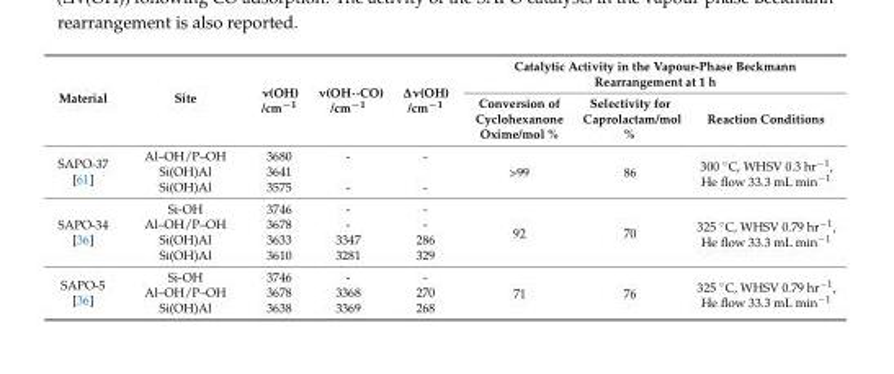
<table><thead><tr><td rowspan="2">Material</td><td rowspan="2">Site</td><td rowspan="2">ν(OH) /cm−1</td><td rowspan="2">ν(OH··CO) /cm−1</td><td rowspan="2">∆ν(OH) /cm−1</td><td colspan="3">Catalytic Activity in the Vapour-Phase Beckmann Rearrangement at 1 h</td></tr><tr><td>Conversion of Cyclohexanone Oxime/mol %</td><td>Selectivity for Caprolactam/mol %</td><td>Reaction Conditions</td></tr></thead><tbody><tr><td rowspan="3">SAPO-37 [61]</td><td>Al–OH/P–OH</td><td>3680</td><td>-</td><td>-</td><td rowspan="3">&gt;99</td><td rowspan="3">86</td><td rowspan="3">300 ◦C, WHSV 0.3 hr−1, He flow 33.3 mL min−1</td></tr><tr><td>Si(OH)Al</td><td>3641</td><td></td><td></td></tr><tr><td>Si(OH)Al</td><td>3575</td><td>-</td><td>-</td></tr><tr><td rowspan="4">SAPO-34 [36]</td><td>Si-OH</td><td>3746</td><td>-</td><td>-</td><td rowspan="4">92</td><td rowspan="4">70</td><td rowspan="4">325 ◦C, WHSV 0.79 hr−1, He flow 33.3 mL min−1</td></tr><tr><td>Al–OH/P–OH</td><td>3678</td><td>-</td><td>-</td></tr><tr><td>Si(OH)Al</td><td>3633</td><td>3347</td><td>286</td></tr><tr><td>Si(OH)Al</td><td>3610</td><td>3281</td><td>329</td></tr><tr><td rowspan="3">SAPO-5 [36]</td><td>Si-OH</td><td>3746</td><td>-</td><td>-</td><td rowspan="3">71</td><td rowspan="3">76</td><td rowspan="3">325 ◦C, WHSV 0.79 hr−1, He flow 33.3 mL min−1</td></tr><tr><td>Al–OH/P–OH</td><td>3678</td><td>3368</td><td>270</td></tr><tr><td>Si(OH)Al</td><td>3638</td><td>3369</td><td>268</td></tr></tbody></table>